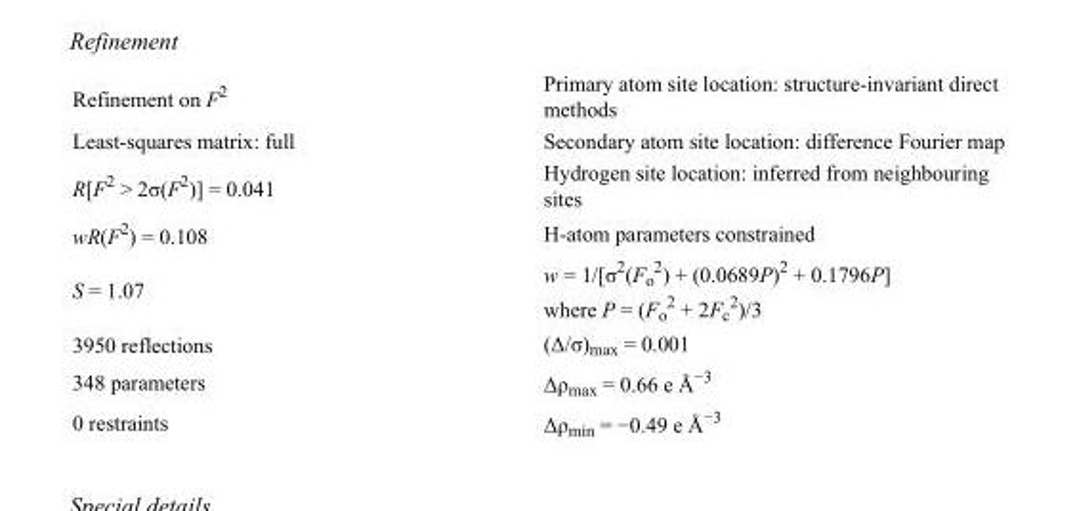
<table><tbody><tr><td>Refinement on F<sup>2</sup></td><td>Primary atom site location: structure-invariant direct methods</td></tr><tr><td>Least-squares matrix: full</td><td>Secondary atom site location: difference Fourier map</td></tr><tr><td>R[F<sup>2</sup> &gt; 2σ(F<sup>2</sup>)] = 0.041</td><td>Hydrogen site location: inferred from neighbouring sites</td></tr><tr><td>wR(F<sup>2</sup>) = 0.108</td><td>H-atom parameters constrained</td></tr><tr><td>S = 1.07</td><td>w = 1/[σ<sup>2</sup>(F<sub>o</sub> <sup>2</sup>) + (0.0689P)<sup>2</sup> + 0.1796P] where P = (F<sub>o</sub> <sup>2</sup> + 2F<sub>c</sub> <sup>2</sup>)/3</td></tr><tr><td>3950 reflections</td><td>(Δ/σ)<sub>max</sub> = 0.001</td></tr><tr><td>348 parameters</td><td>Δρ<sub>max</sub> = 0.66 e Å<sup>−3</sup></td></tr><tr><td>0 restraints</td><td>Δρ<sub>min</sub> = −0.49 e Å<sup>−3</sup></td></tr></tbody></table>